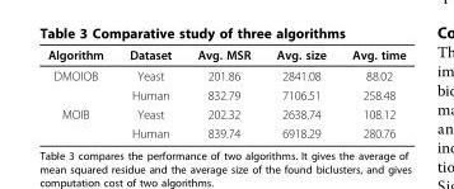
<table><thead><tr><td>Algorithm</td><td>Dataset</td><td>Avg. MSR</td><td>Avg. size</td><td>Avg. time</td></tr></thead><tbody><tr><td rowspan="2">DMOIOB</td><td>Yeast</td><td>201.86</td><td>2841.08</td><td>88.02</td></tr><tr><td>Human</td><td>832.79</td><td>7106.51</td><td>258.48</td></tr><tr><td rowspan="2">MOIB</td><td>Yeast</td><td>202.32</td><td>2638.74</td><td>108.12</td></tr><tr><td>Human</td><td>839.74</td><td>6918.29</td><td>280.76</td></tr></tbody></table>